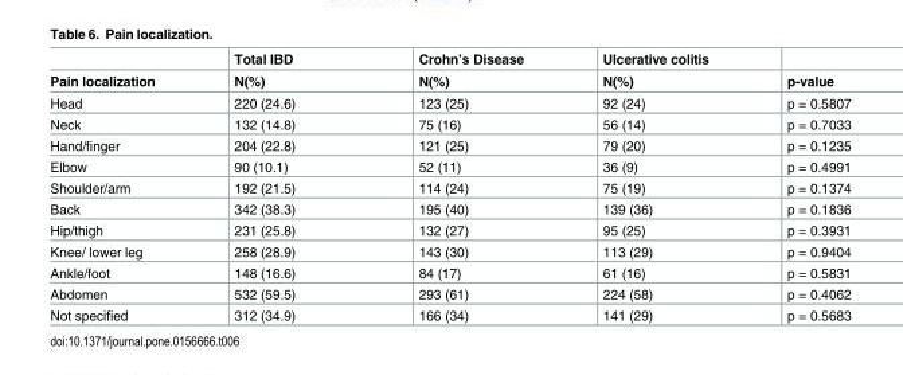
<table><thead><tr><td rowspan="2">Pain localization</td><td rowspan="2">Total IBD N(%)</td><td rowspan="2">Crohn’s Disease N(%)</td><td rowspan="2">Ulcerative colitis N(%)</td><td rowspan="2">p-value</td></tr><tr></tr></thead><tbody><tr><td>Head</td><td>220 (24.6)</td><td>123 (25)</td><td>92 (24)</td><td>p = 0.5807</td></tr><tr><td>Neck</td><td>132 (14.8)</td><td>75 (16)</td><td>56 (14)</td><td>p = 0.7033</td></tr><tr><td>Hand/finger</td><td>204 (22.8)</td><td>121 (25)</td><td>79 (20)</td><td>p = 0.1235</td></tr><tr><td>Elbow</td><td>90 (10.1)</td><td>52 (11)</td><td>36 (9)</td><td>p = 0.4991</td></tr><tr><td>Shoulder/arm</td><td>192 (21.5)</td><td>114 (24)</td><td>75 (19)</td><td>p = 0.1374</td></tr><tr><td>Back</td><td>342 (38.3)</td><td>195 (40)</td><td>139 (36)</td><td>p = 0.1836</td></tr><tr><td>Hip/thigh</td><td>231 (25.8)</td><td>132 (27)</td><td>95 (25)</td><td>p = 0.3931</td></tr><tr><td>Knee/ lower leg</td><td>258 (28.9)</td><td>143 (30)</td><td>113 (29)</td><td>p = 0.9404</td></tr><tr><td>Ankle/foot</td><td>148 (16.6)</td><td>84 (17)</td><td>61 (16)</td><td>p = 0.5831</td></tr><tr><td>Abdomen</td><td>532 (59.5)</td><td>293 (61)</td><td>224 (58)</td><td>p = 0.4062</td></tr><tr><td>Not specified</td><td>312 (34.9)</td><td>166 (34)</td><td>141 (29)</td><td>p = 0.5683</td></tr></tbody></table>